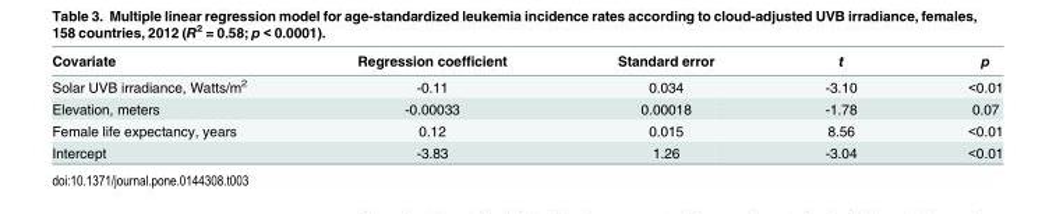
<table><thead><tr><td>Covariate</td><td>Regression coefficient</td><td>Standard error</td><td>t</td><td>p</td></tr></thead><tbody><tr><td>Solar UVB irradiance, Watts/m<sup>2</sup></td><td>-0.11</td><td>0.034</td><td>-3.10</td><td>&lt;0.01</td></tr><tr><td>Elevation, meters</td><td>-0.00033</td><td>0.00018</td><td>-1.78</td><td>0.07</td></tr><tr><td>Female life expectancy, years</td><td>0.12</td><td>0.015</td><td>8.56</td><td>&lt;0.01</td></tr><tr><td>Intercept</td><td>-3.83</td><td>1.26</td><td>-3.04</td><td>&lt;0.01</td></tr></tbody></table>